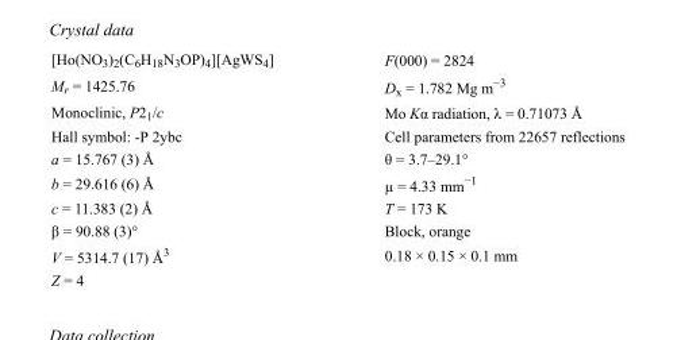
<table><tbody><tr><td>[Ho(NO<sub>3</sub>)<sub>2</sub>(C<sub>6</sub>H<sub>18</sub>N<sub>3</sub>OP)<sub>4</sub>][AgWS<sub>4</sub>]</td><td>F(000) = 2824</td></tr><tr><td>M<sub>r</sub> = 1425.76</td><td>D<sub>x</sub> = 1.782 Mg m<sup>−3</sup></td></tr><tr><td>Monoclinic, P2<sub>1</sub>/c</td><td>Mo Kα radiation, λ = 0.71073 Å</td></tr><tr><td>Hall symbol: -P 2ybc</td><td>Cell parameters from 22657 reflections</td></tr><tr><td>a = 15.767 (3) Å</td><td>θ = 3.7–29.1°</td></tr><tr><td>b = 29.616 (6) Å</td><td>µ = 4.33 mm<sup>−1</sup></td></tr><tr><td>c = 11.383 (2) Å</td><td>T = 173 K</td></tr><tr><td>β = 90.88 (3)°</td><td>Block, orange</td></tr><tr><td>V = 5314.7 (17) Å<sup>3</sup></td><td>0.18 × 0.15 × 0.1 mm</td></tr><tr><td>Z = 4</td><td></td></tr></tbody></table>